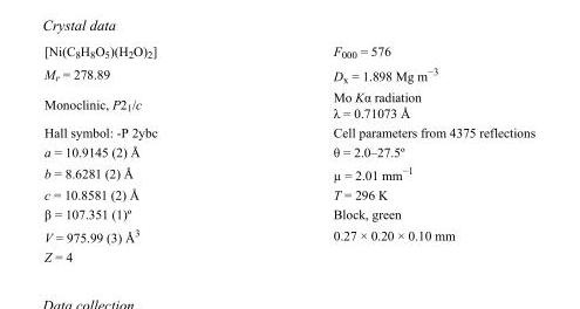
<table><tbody><tr><td>[Ni(C<sub>8</sub>H<sub>8</sub>O<sub>5</sub>)(H<sub>2</sub>O)<sub>2</sub>]</td><td>F000 = 576</td></tr><tr><td>M<sub>r</sub> = 278.89</td><td>D<sub>x</sub> = 1.898 Mg m<sup>−3</sup></td></tr><tr><td>Monoclinic, P2<sub>1</sub>/c</td><td>Mo Kα radiation λ = 0.71073 Å</td></tr><tr><td>Hall symbol: -P 2ybc</td><td>Cell parameters from 4375 reflections</td></tr><tr><td>a = 10.9145 (2) Å</td><td>θ = 2.0–27.5º</td></tr><tr><td>b = 8.6281 (2) Å</td><td>µ = 2.01 mm<sup>−1</sup></td></tr><tr><td>c = 10.8581 (2) Å</td><td>T = 296 K</td></tr><tr><td>β = 107.351 (1)º</td><td>Block, green</td></tr><tr><td>V = 975.99 (3) Å<sup>3</sup></td><td>0.27 × 0.20 × 0.10 mm</td></tr><tr><td>Z = 4</td><td></td></tr></tbody></table>